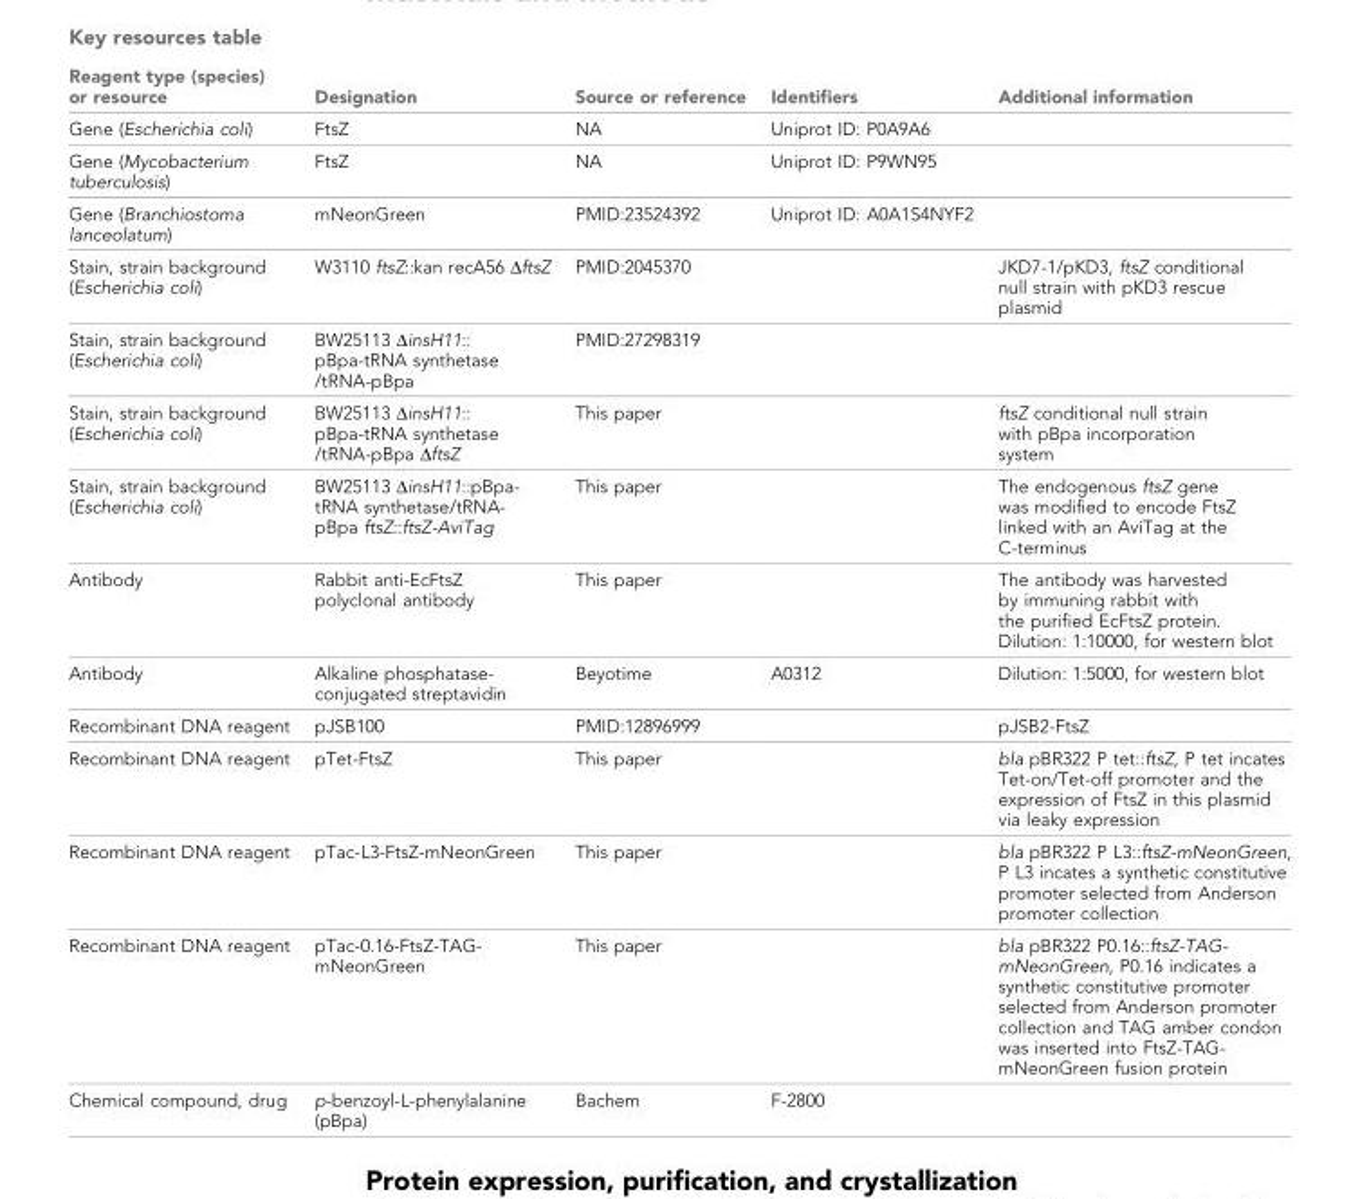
<table><thead><tr><td>Reagent type (species) or resource</td><td>Designation</td><td>Source or reference</td><td>Identifiers</td><td>Additional information</td></tr></thead><tbody><tr><td>Gene (Escherichia coli)</td><td>FtsZ</td><td>NA</td><td>Uniprot ID: P0A9A6</td><td></td></tr><tr><td>Gene (Mycobacterium tuberculosis)</td><td>FtsZ</td><td>NA</td><td>Uniprot ID: P9WN95</td><td></td></tr><tr><td>Gene (Branchiostoma lanceolatum)</td><td>mNeonGreen</td><td>PMID:23524392</td><td>Uniprot ID: A0A1S4NYF2</td><td></td></tr><tr><td>Stain, strain background (Escherichia coli)</td><td>W3110 ftsZ::kan recA56 ΔftsZ</td><td>PMID:2045370</td><td></td><td>JKD7-1/pKD3, ftsZ conditional null strain with pKD3 rescue plasmid</td></tr><tr><td>Stain, strain background (Escherichia coli)</td><td>BW25113 ΔinsH11:: pBpa-tRNA synthetase /tRNA-pBpa</td><td>PMID:27298319</td><td></td><td></td></tr><tr><td>Stain, strain background (Escherichia coli)</td><td>BW25113 ΔinsH11:: pBpa-tRNA synthetase /tRNA-pBpa ΔftsZ</td><td>This paper</td><td></td><td>ftsZ conditional null strain with pBpa incorporation system</td></tr><tr><td>Stain, strain background (Escherichia coli)</td><td>BW25113 ΔinsH11::pBpa- tRNA synthetase/tRNA- pBpa ftsZ::ftsZ-AviTag</td><td>This paper</td><td></td><td>The endogenous ftsZ gene was modified to encode FtsZ linked with an AviTag at the C-terminus</td></tr><tr><td>Antibody</td><td>Rabbit anti-EcFtsZ polyclonal antibody</td><td>This paper</td><td></td><td>The antibody was harvested by immuning rabbit with the purified EcFtsZ protein. Dilution: 1:10000, for western blot</td></tr><tr><td>Antibody</td><td>Alkaline phosphatase- conjugated streptavidin</td><td>Beyotime</td><td>A0312</td><td>Dilution: 1:5000, for western blot</td></tr><tr><td>Recombinant DNA reagent</td><td>pJSB100</td><td>PMID:12896999</td><td></td><td>pJSB2-FtsZ</td></tr><tr><td>Recombinant DNA reagent</td><td>pTet-FtsZ</td><td>This paper</td><td></td><td>bla pBR322 P tet::ftsZ, P tet incates Tet-on/Tet-off promoter and the expression of FtsZ in this plasmid via leaky expression</td></tr><tr><td>Recombinant DNA reagent</td><td>pTac-L3-FtsZ-mNeonGreen</td><td>This paper</td><td></td><td>bla pBR322 P L3::ftsZ-mNeonGreen, P L3 incates a synthetic constitutive promoter selected from Anderson promoter collection</td></tr><tr><td>Recombinant DNA reagent</td><td>pTac-0.16-FtsZ-TAG- mNeonGreen</td><td>This paper</td><td></td><td>bla pBR322 P0.16::ftsZ-TAG- mNeonGreen, P0.16 indicates a synthetic constitutive promoter selected from Anderson promoter collection and TAG amber condon was inserted into FtsZ-TAG- mNeonGreen fusion protein</td></tr><tr><td>Chemical compound, drug</td><td>p-benzoyl-L-phenylalanine (pBpa)</td><td>Bachem</td><td>F-2800</td><td></td></tr></tbody></table>